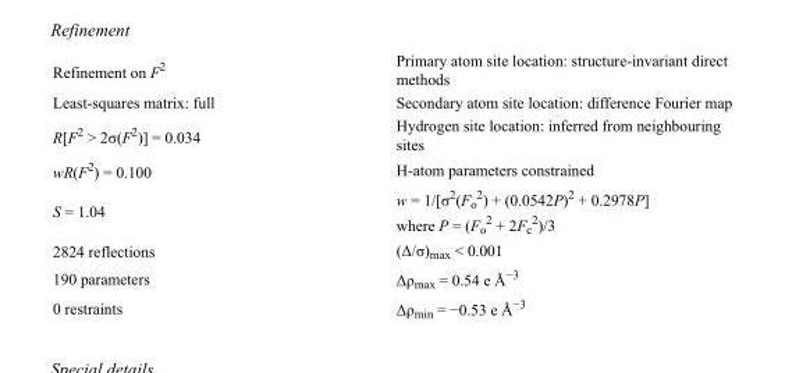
<table><tbody><tr><td>Refinement on F<sup>2</sup></td><td>Primary atom site location: structure-invariant direct methods</td></tr><tr><td>Least-squares matrix: full</td><td>Secondary atom site location: difference Fourier map</td></tr><tr><td>R[F<sup>2</sup> &gt; 2σ(F<sup>2</sup>)] = 0.034</td><td>Hydrogen site location: inferred from neighbouring sites</td></tr><tr><td>wR(F<sup>2</sup>) = 0.100</td><td>H-atom parameters constrained</td></tr><tr><td>S = 1.04</td><td>w = 1/[σ<sup>2</sup>(F<sub>o</sub> <sup>2</sup>) + (0.0542P)<sup>2</sup> + 0.2978P] where P = (F<sub>o</sub> <sup>2</sup> + 2F<sub>c</sub> <sup>2</sup>)/3</td></tr><tr><td>2824 reflections</td><td>(Δ/σ)<sub>max</sub> &lt; 0.001</td></tr><tr><td>190 parameters</td><td>Δρ<sub>max</sub> = 0.54 e Å<sup>−3</sup></td></tr><tr><td>0 restraints</td><td>Δρ<sub>min</sub> = −0.53 e Å<sup>−3</sup></td></tr></tbody></table>